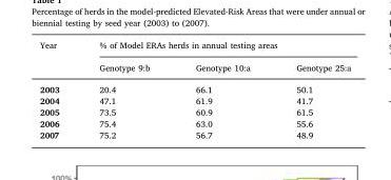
<table><thead><tr><td rowspan="2">Year</td><td colspan="3">% of Model ERAs herds in annual testing areas</td></tr><tr><td>Genotype 9:b</td><td>Genotype 10:a</td><td>Genotype 25:a</td></tr></thead><tbody><tr><td>2003</td><td>20.4</td><td>66.1</td><td>50.1</td></tr><tr><td>2004</td><td>47.1</td><td>61.9</td><td>41.7</td></tr><tr><td>2005</td><td>73.5</td><td>60.9</td><td>61.5</td></tr><tr><td>2006</td><td>75.4</td><td>63.0</td><td>55.6</td></tr><tr><td>2007</td><td>75.2</td><td>56.7</td><td>48.9</td></tr></tbody></table>